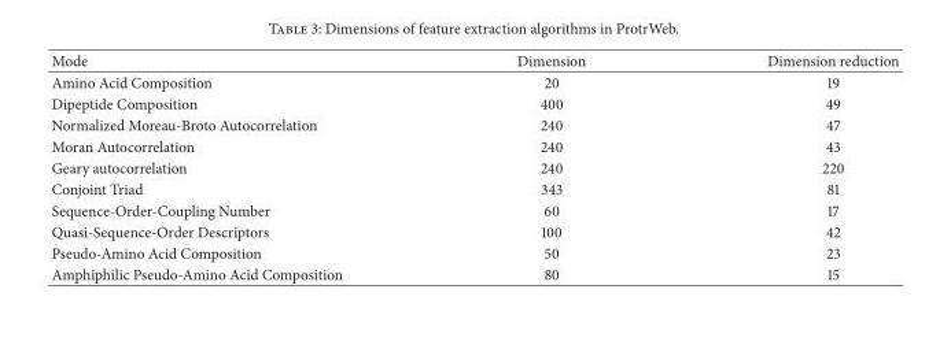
<table><thead><tr><td>Mode</td><td>Dimension</td><td>Dimension reduction</td></tr></thead><tbody><tr><td>Amino Acid Composition</td><td>20</td><td>19</td></tr><tr><td>Dipeptide Composition</td><td>400</td><td>49</td></tr><tr><td>Normalized Moreau-Broto Autocorrelation</td><td>240</td><td>47</td></tr><tr><td>Moran Autocorrelation</td><td>240</td><td>43</td></tr><tr><td>Geary autocorrelation</td><td>240</td><td>220</td></tr><tr><td>Conjoint Triad</td><td>343</td><td>81</td></tr><tr><td>Sequence-Order-Coupling Number</td><td>60</td><td>17</td></tr><tr><td>Quasi-Sequence-Order Descriptors</td><td>100</td><td>42</td></tr><tr><td>Pseudo-Amino Acid Composition</td><td>50</td><td>23</td></tr><tr><td>Amphiphilic Pseudo-Amino Acid Composition</td><td>80</td><td>15</td></tr></tbody></table>